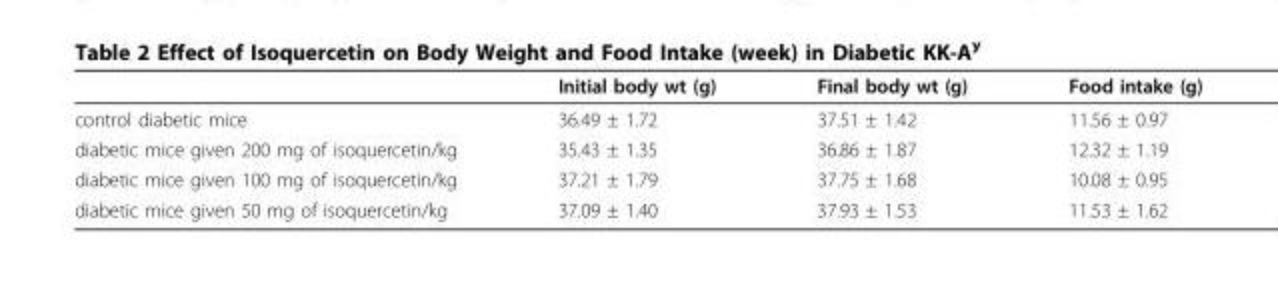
<table><thead><tr><td></td><td>Initial body wt (g)</td><td>Final body wt (g)</td><td>Food intake (g)</td></tr></thead><tbody><tr><td>control diabetic mice</td><td>36.49 ± 1.72</td><td>37.51 ± 1.42</td><td>11.56 ± 0.97</td></tr><tr><td>diabetic mice given 200 mg of isoquercetin/kg</td><td>35.43 ± 1.35</td><td>36.86 ± 1.87</td><td>12.32 ± 1.19</td></tr><tr><td>diabetic mice given 100 mg of isoquercetin/kg</td><td>37.21 ± 1.79</td><td>37.75 ± 1.68</td><td>10.08 ± 0.95</td></tr><tr><td>diabetic mice given 50 mg of isoquercetin/kg</td><td>37.09 ± 1.40</td><td>37.93 ± 1.53</td><td>11.53 ± 1.62</td></tr></tbody></table>